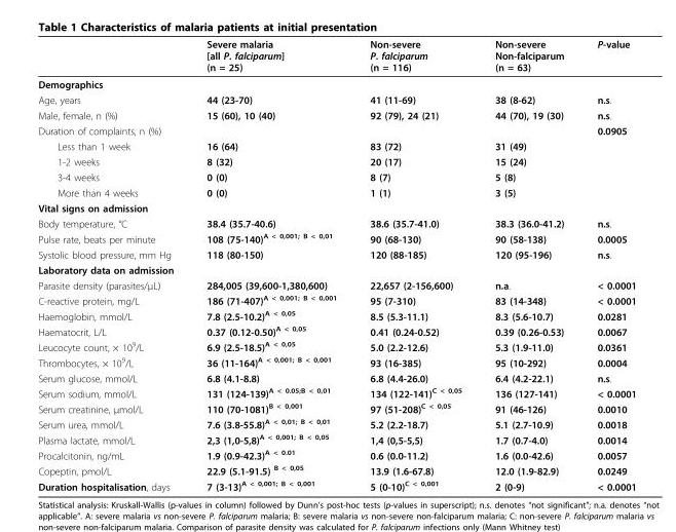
<table><thead><tr><td></td><td>Severe malaria [all P. falciparum] (n = 25)</td><td>Non-severe P. falciparum (n = 116)</td><td>Non-severe Non-falciparum (n = 63)</td><td>P-value</td></tr></thead><tbody><tr><td colspan="5">Demographics</td></tr><tr><td>Age, years</td><td>44 (23-70)</td><td>41 (11-69)</td><td>38 (8-62)</td><td>n.s.</td></tr><tr><td>Male, female, n (%)</td><td>15 (60), 10 (40)</td><td>92 (79), 24 (21)</td><td>44 (70), 19 (30)</td><td>n.s.</td></tr><tr><td>Duration of complaints, n (%)</td><td></td><td></td><td></td><td>0.0905</td></tr><tr><td>Less than 1 week</td><td>16 (64)</td><td>83 (72)</td><td>31 (49)</td><td></td></tr><tr><td>1-2 weeks</td><td>8 (32)</td><td>20 (17)</td><td>15 (24)</td><td></td></tr><tr><td>3-4 weeks</td><td>0 (0)</td><td>8 (7)</td><td>5 (8)</td><td></td></tr><tr><td>More than 4 weeks</td><td>0 (0)</td><td>1 (1)</td><td>3 (5)</td><td></td></tr><tr><td colspan="5">Vital signs on admission</td></tr><tr><td>Body temperature, °C</td><td>38.4 (35.7-40.6)</td><td>38.6 (35.7-41.0)</td><td>38.3 (36.0-41.2)</td><td>n.s.</td></tr><tr><td>Pulse rate, beats per minute</td><td>108 (75-140)<sup>A &lt; 0,001; B &lt; 0,01</sup></td><td>90 (68-130)</td><td>90 (58-138)</td><td>0.0005</td></tr><tr><td>Systolic blood pressure, mm Hg</td><td>118 (80-150)</td><td>120 (88-185)</td><td>120 (95-196)</td><td>n.s.</td></tr><tr><td colspan="5">Laboratory data on admission</td></tr><tr><td>Parasite density (parasites/μL)</td><td>284,005 (39,600-1,380,600)</td><td>22,657 (2-156,600)</td><td>n.a.</td><td>&lt; 0.0001</td></tr><tr><td>C-reactive protein, mg/L</td><td>186 (71-407)<sup>A &lt; 0,001; B &lt; 0,001</sup></td><td>95 (7-310)</td><td>83 (14-348)</td><td>&lt; 0.0001</td></tr><tr><td>Haemoglobin, mmol/L</td><td>7.8 (2.5-10.2)<sup>A &lt; 0,05</sup></td><td>8.5 (5.3-11.1)</td><td>8.3 (5.6-10.7)</td><td>0.0281</td></tr><tr><td>Haematocrit, L/L</td><td>0.37 (0.12-0.50)<sup>A &lt; 0,05</sup></td><td>0.41 (0.24-0.52)</td><td>0.39 (0.26-0.53)</td><td>0.0067</td></tr><tr><td>Leucocyte count, × 10<sup>9</sup>/L</td><td>6.9 (2.5-18.5)<sup>A &lt; 0,05</sup></td><td>5.0 (2.2-12.6)</td><td>5.3 (1.9-11.0)</td><td>0.0361</td></tr><tr><td>Thrombocytes, × 10<sup>9</sup>/L</td><td>36 (11-164)<sup>A &lt; 0,001; B &lt; 0,001</sup></td><td>93 (16-385)</td><td>95 (10-292)</td><td>0.0004</td></tr><tr><td>Serum glucose, mmol/L</td><td>6.8 (4.1-8.8)</td><td>6.8 (4.4-26.0)</td><td>6.4 (4.2-22.1)</td><td>n.s.</td></tr><tr><td>Serum sodium, mmol/L</td><td>131 (124-139)<sup>A &lt; 0.05;B &lt; 0,01</sup></td><td>134 (122-141)<sup>C &lt; 0,05</sup></td><td>136 (127-141)</td><td>&lt; 0.0001</td></tr><tr><td>Serum creatinine, μmol/L</td><td>110 (70-1081)<sup>B &lt; 0,001</sup></td><td>97 (51-208)<sup>C &lt; 0,05</sup></td><td>91 (46-126)</td><td>0.0010</td></tr><tr><td>Serum urea, mmol/L</td><td>7.6 (3.8-55.8)<sup>A &lt; 0,01; B &lt; 0,01</sup></td><td>5.2 (2.2-18.7)</td><td>5.1 (2.7-10.9)</td><td>0.0018</td></tr><tr><td>Plasma lactate, mmol/L</td><td>2,3 (1,0-5,8)<sup>A &lt; 0,001; B &lt; 0,05</sup></td><td>1,4 (0,5-5,5)</td><td>1.7 (0.7-4.0)</td><td>0.0014</td></tr><tr><td>Procalcitonin, ng/mL</td><td>1.9 (0.9-42.3)<sup>A &lt; 0.01</sup></td><td>0.6 (0.0-11.2)</td><td>1.6 (0.0-42.6)</td><td>0.0057</td></tr><tr><td>Copeptin, pmol/L</td><td>22.9 (5.1-91.5) <sup>B &lt; 0,05</sup></td><td>13.9 (1.6-67.8)</td><td>12.0 (1.9-82.9)</td><td>0.0249</td></tr><tr><td>Duration hospitalisation, days</td><td>7 (3-13)<sup>A &lt; 0,001; B &lt; 0,001</sup></td><td>5 (0-10)<sup>C &lt; 0,001</sup></td><td>2 (0-9)</td><td>&lt; 0.0001</td></tr></tbody></table>